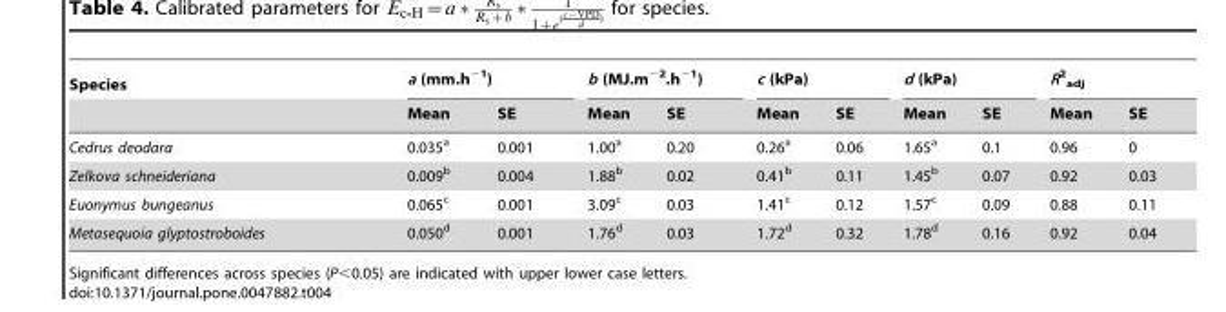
<table><thead><tr><td rowspan="2">Species</td><td colspan="2">a (mm.h<sup>−1</sup>)</td><td colspan="2">b (MJ.m<sup>−2</sup>.h<sup>−1</sup>)</td><td colspan="2">c (kPa)</td><td colspan="2">d (kPa)</td><td colspan="2">R<sup>2</sup> <sub>adj</sub></td></tr><tr><td>Mean</td><td>SE</td><td>Mean</td><td>SE</td><td>Mean</td><td>SE</td><td>Mean</td><td>SE</td><td>Mean</td><td>SE</td></tr></thead><tbody><tr><td>Cedrus deodara</td><td>0.035<sup>a</sup></td><td>0.001</td><td>1.00<sup>a</sup></td><td>0.20</td><td>0.26<sup>a</sup></td><td>0.06</td><td>1.65<sup>a</sup></td><td>0.1</td><td>0.96</td><td>0</td></tr><tr><td>Zelkova schneideriana</td><td>0.009<sup>b</sup></td><td>0.004</td><td>1.88<sup>b</sup></td><td>0.02</td><td>0.41<sup>b</sup></td><td>0.11</td><td>1.45<sup>b</sup></td><td>0.07</td><td>0.92</td><td>0.03</td></tr><tr><td>Euonymus bungeanus</td><td>0.065<sup>c</sup></td><td>0.001</td><td>3.09<sup>c</sup></td><td>0.03</td><td>1.41<sup>c</sup></td><td>0.12</td><td>1.57<sup>c</sup></td><td>0.09</td><td>0.88</td><td>0.11</td></tr><tr><td>Metasequoia glyptostroboides</td><td>0.050<sup>d</sup></td><td>0.001</td><td>1.76<sup>d</sup></td><td>0.03</td><td>1.72<sup>d</sup></td><td>0.32</td><td>1.78<sup>d</sup></td><td>0.16</td><td>0.92</td><td>0.04</td></tr></tbody></table>